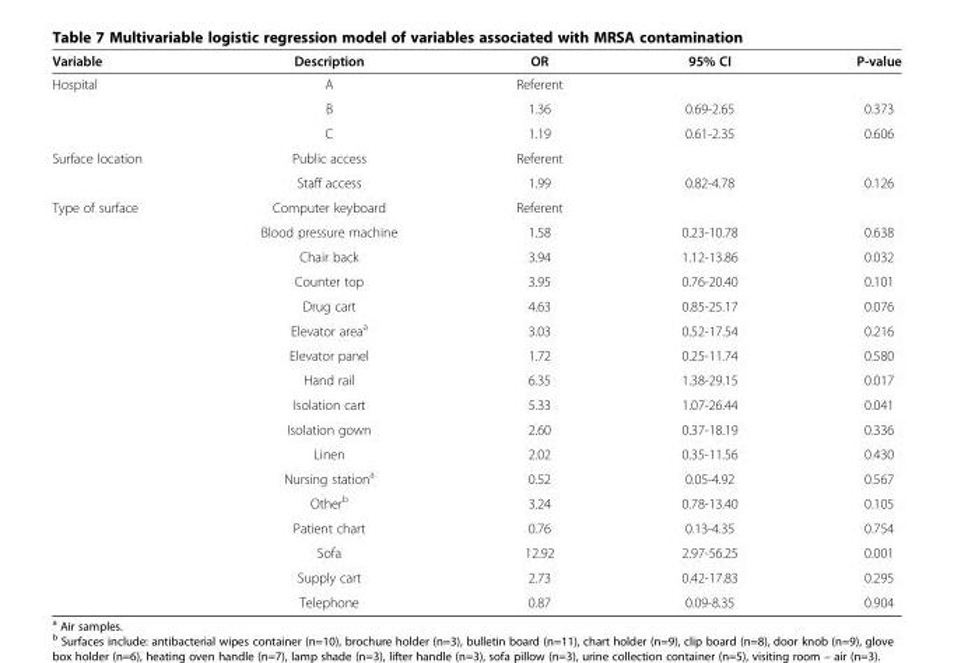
<table><thead><tr><td>Variable</td><td>Description</td><td>OR</td><td>95% CI</td><td>P-value</td></tr></thead><tbody><tr><td rowspan="3">Hospital</td><td>A</td><td>Referent</td><td></td><td></td></tr><tr><td>B</td><td>1.36</td><td>0.69-2.65</td><td>0.373</td></tr><tr><td>C</td><td>1.19</td><td>0.61-2.35</td><td>0.606</td></tr><tr><td rowspan="2">Surface location</td><td>Public access</td><td>Referent</td><td></td><td></td></tr><tr><td>Staff access</td><td>1.99</td><td>0.82-4.78</td><td>0.126</td></tr><tr><td rowspan="17">Type of surface</td><td>Computer keyboard</td><td>Referent</td><td></td><td></td></tr><tr><td>Blood pressure machine</td><td>1.58</td><td>0.23-10.78</td><td>0.638</td></tr><tr><td>Chair back</td><td>3.94</td><td>1.12-13.86</td><td>0.032</td></tr><tr><td>Counter top</td><td>3.95</td><td>0.76-20.40</td><td>0.101</td></tr><tr><td>Drug cart</td><td>4.63</td><td>0.85-25.17</td><td>0.076</td></tr><tr><td>Elevator area<sup>a</sup></td><td>3.03</td><td>0.52-17.54</td><td>0.216</td></tr><tr><td>Elevator panel</td><td>1.72</td><td>0.25-11.74</td><td>0.580</td></tr><tr><td>Hand rail</td><td>6.35</td><td>1.38-29.15</td><td>0.017</td></tr><tr><td>Isolation cart</td><td>5.33</td><td>1.07-26.44</td><td>0.041</td></tr><tr><td>Isolation gown</td><td>2.60</td><td>0.37-18.19</td><td>0.336</td></tr><tr><td>Linen</td><td>2.02</td><td>0.35-11.56</td><td>0.430</td></tr><tr><td>Nursing station<sup>a</sup></td><td>0.52</td><td>0.05-4.92</td><td>0.567</td></tr><tr><td>Other<sup>b</sup></td><td>3.24</td><td>0.78-13.40</td><td>0.105</td></tr><tr><td>Patient chart</td><td>0.76</td><td>0.13-4.35</td><td>0.754</td></tr><tr><td>Sofa</td><td>12.92</td><td>2.97-56.25</td><td>0.001</td></tr><tr><td>Supply cart</td><td>2.73</td><td>0.42-17.83</td><td>0.295</td></tr><tr><td>Telephone</td><td>0.87</td><td>0.09-8.35</td><td>0.904</td></tr></tbody></table>